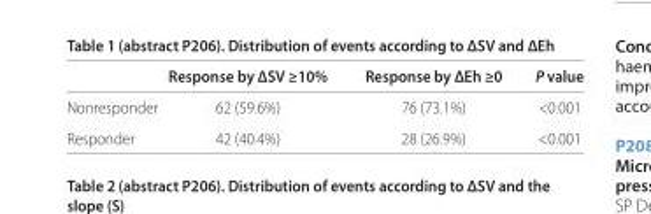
<table><thead><tr><td></td><td>Response by ΔSV ≥10%</td><td>Response by ΔEh ≥0</td><td>P value</td></tr></thead><tbody><tr><td>Nonresponder</td><td>62 (59.6%)</td><td>76 (73.1%)</td><td>&lt;0.001</td></tr><tr><td>Responder</td><td>42 (40.4%)</td><td>28 (26.9%)</td><td>&lt;0.001</td></tr></tbody></table>